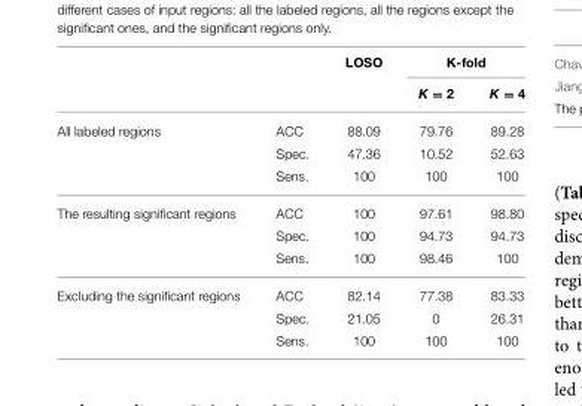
<table><thead><tr><td rowspan="2"></td><td rowspan="2"></td><td rowspan="2">LOSO</td><td colspan="2">K-fold</td></tr><tr><td>K = 2</td><td>K = 4</td></tr></thead><tbody><tr><td rowspan="3">All labeled regions</td><td>ACC</td><td>88.09</td><td>79.76</td><td>89.28</td></tr><tr><td>Spec.</td><td>47.36</td><td>10.52</td><td>52.63</td></tr><tr><td>Sens.</td><td>100</td><td>100</td><td>100</td></tr><tr><td rowspan="3">The resulting significant regions</td><td>ACC</td><td>100</td><td>97.61</td><td>98.80</td></tr><tr><td>Spec.</td><td>100</td><td>94.73</td><td>94.73</td></tr><tr><td>Sens.</td><td>100</td><td>98.46</td><td>100</td></tr><tr><td rowspan="3">Excluding the significant regions</td><td>ACC</td><td>82.14</td><td>77.38</td><td>83.33</td></tr><tr><td>Spec.</td><td>21.05</td><td>0</td><td>26.31</td></tr><tr><td>Sens.</td><td>100</td><td>100</td><td>100</td></tr></tbody></table>